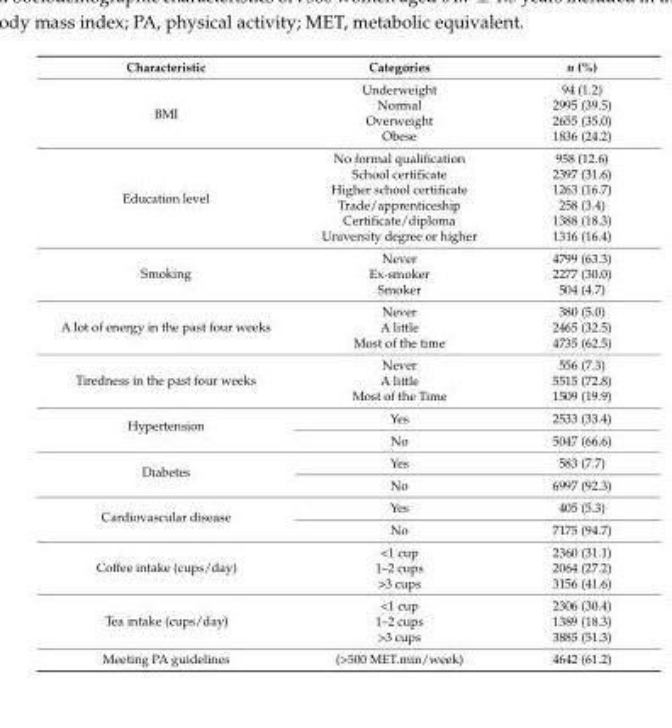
<table><thead><tr><td>Characteristic</td><td>Categories</td><td>n (%)</td></tr></thead><tbody><tr><td rowspan="4">BMI</td><td>Underweight</td><td>94 (1.2)</td></tr><tr><td>Normal</td><td>2995 (39.5)</td></tr><tr><td>Overweight</td><td>2655 (35.0)</td></tr><tr><td>Obese</td><td>1836 (24.2)</td></tr><tr><td rowspan="6">Education level</td><td>No formal qualification</td><td>958 (12.6)</td></tr><tr><td>School certificate</td><td>2397 (31.6)</td></tr><tr><td>Higher school certificate</td><td>1263 (16.7)</td></tr><tr><td>Trade/apprenticeship</td><td>258 (3.4)</td></tr><tr><td>Certificate/diploma</td><td>1388 (18.3)</td></tr><tr><td>University degree or higher</td><td>1316 (16.4)</td></tr><tr><td rowspan="3">Smoking</td><td>Never</td><td>4799 (63.3)</td></tr><tr><td>Ex-smoker</td><td>2277 (30.0)</td></tr><tr><td>Smoker</td><td>504 (4.7)</td></tr><tr><td rowspan="3">A lot of energy in the past four weeks</td><td>Never</td><td>380 (5.0)</td></tr><tr><td>A little</td><td>2465 (32.5)</td></tr><tr><td>Most of the time</td><td>4735 (62.5)</td></tr><tr><td rowspan="3">Tiredness in the past four weeks</td><td>Never</td><td>556 (7.3)</td></tr><tr><td>A little</td><td>5515 (72.8)</td></tr><tr><td>Most of the Time</td><td>1509 (19.9)</td></tr><tr><td rowspan="2">Hypertension</td><td>Yes</td><td>2533 (33.4)</td></tr><tr><td>No</td><td>5047 (66.6)</td></tr><tr><td rowspan="2">Diabetes</td><td>Yes</td><td>583 (7.7)</td></tr><tr><td>No</td><td>6997 (92.3)</td></tr><tr><td rowspan="2">Cardiovascular disease</td><td>Yes</td><td>405 (5.3)</td></tr><tr><td>No</td><td>7175 (94.7)</td></tr><tr><td rowspan="3">Coffee intake (cups/day)</td><td>&lt;1 cup</td><td>2360 (31.1)</td></tr><tr><td>1–2 cups</td><td>2064 (27.2)</td></tr><tr><td>&gt;3 cups</td><td>3156 (41.6)</td></tr><tr><td rowspan="3">Tea intake (cups/day)</td><td>&lt;1 cup</td><td>2306 (30.4)</td></tr><tr><td>1–2 cups</td><td>1389 (18.3)</td></tr><tr><td>&gt;3 cups</td><td>3885 (51.3)</td></tr><tr><td>Meeting PA guidelines</td><td>(&gt;500 MET.min/week)</td><td>4642 (61.2)</td></tr></tbody></table>